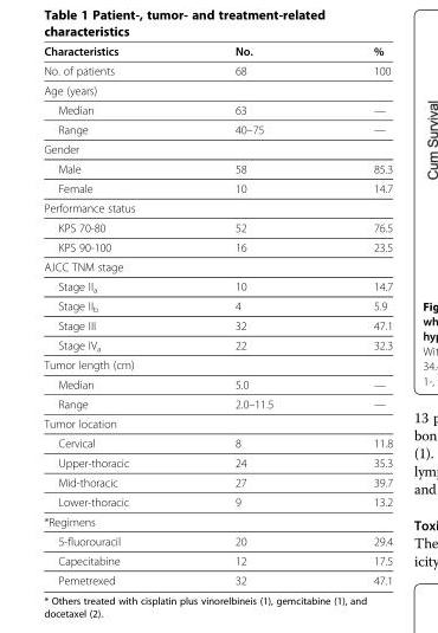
<table><thead><tr><td>Characteristics</td><td>No.</td><td>%</td></tr></thead><tbody><tr><td>No. of patients</td><td>68</td><td>100</td></tr><tr><td colspan="3">Age (years)</td></tr><tr><td>Median</td><td>63</td><td>—</td></tr><tr><td>Range</td><td>40–75</td><td>—</td></tr><tr><td colspan="3">Gender</td></tr><tr><td>Male</td><td>58</td><td>85.3</td></tr><tr><td>Female</td><td>10</td><td>14.7</td></tr><tr><td colspan="3">Performance status</td></tr><tr><td>KPS 70-80</td><td>52</td><td>76.5</td></tr><tr><td>KPS 90-100</td><td>16</td><td>23.5</td></tr><tr><td colspan="3">AJCC TNM stage</td></tr><tr><td>Stage II<sub>a</sub></td><td>10</td><td>14.7</td></tr><tr><td>Stage II<sub>b</sub></td><td>4</td><td>5.9</td></tr><tr><td>Stage III</td><td>32</td><td>47.1</td></tr><tr><td>Stage IV<sub>a</sub></td><td>22</td><td>32.3</td></tr><tr><td colspan="3">Tumor length (cm)</td></tr><tr><td>Median</td><td>5.0</td><td>—</td></tr><tr><td>Range</td><td>2.0–11.5</td><td>—</td></tr><tr><td colspan="3">Tumor location</td></tr><tr><td>Cervical</td><td>8</td><td>11.8</td></tr><tr><td>Upper-thoracic</td><td>24</td><td>35.3</td></tr><tr><td>Mid-thoracic</td><td>27</td><td>39.7</td></tr><tr><td>Lower-thoracic</td><td>9</td><td>13.2</td></tr><tr><td colspan="3">*Regimens</td></tr><tr><td>5-fluorouracil</td><td>20</td><td>29.4</td></tr><tr><td>Capecitabine</td><td>12</td><td>17.5</td></tr><tr><td>Pemetrexed</td><td>32</td><td>47.1</td></tr></tbody></table>